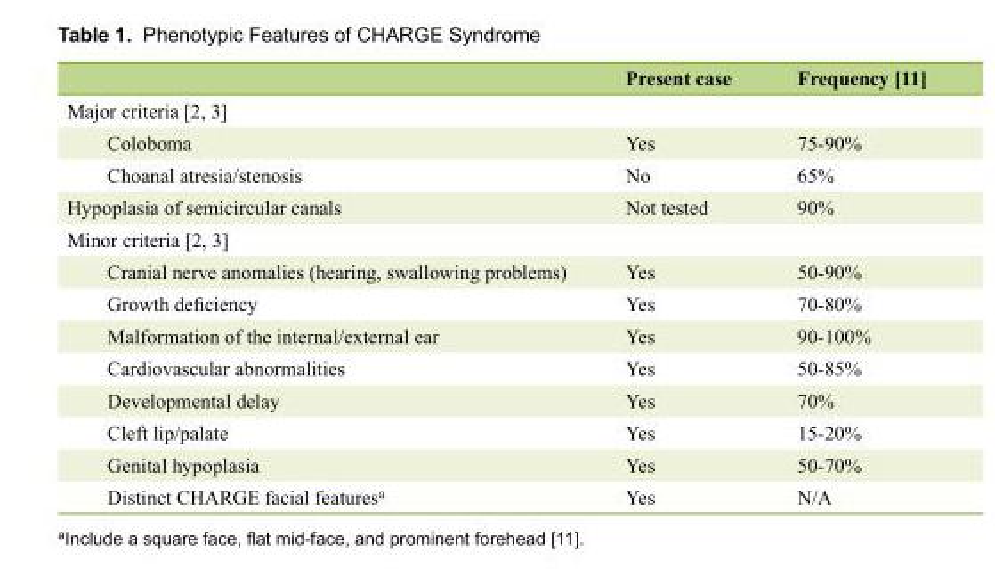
<table><thead><tr><td></td><td>Present case</td><td>Frequency [11]</td></tr></thead><tbody><tr><td colspan="3">Major criteria [2, 3]</td></tr><tr><td>Coloboma</td><td>Yes</td><td>75-90%</td></tr><tr><td>Choanal atresia/stenosis</td><td>No</td><td>65%</td></tr><tr><td>Hypoplasia of semicircular canals</td><td>Not tested</td><td>90%</td></tr><tr><td colspan="3">Minor criteria [2, 3]</td></tr><tr><td>Cranial nerve anomalies (hearing, swallowing problems)</td><td>Yes</td><td>50-90%</td></tr><tr><td>Growth deficiency</td><td>Yes</td><td>70-80%</td></tr><tr><td>Malformation of the internal/external ear</td><td>Yes</td><td>90-100%</td></tr><tr><td>Cardiovascular abnormalities</td><td>Yes</td><td>50-85%</td></tr><tr><td>Developmental delay</td><td>Yes</td><td>70%</td></tr><tr><td>Cleft lip/palate</td><td>Yes</td><td>15-20%</td></tr><tr><td>Genital hypoplasia</td><td>Yes</td><td>50-70%</td></tr><tr><td>Distinct CHARGE facial features<sup>a</sup></td><td>Yes</td><td>N/A</td></tr></tbody></table>